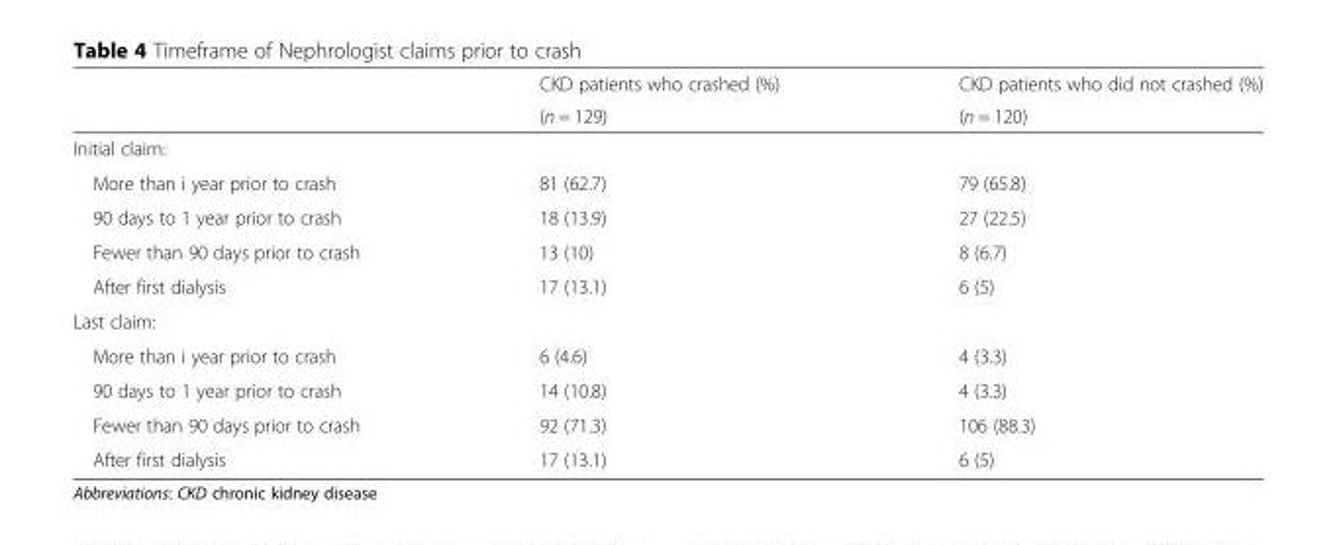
<table><thead><tr><td rowspan="2"></td><td rowspan="2">CKD patients who crashed (%) (n = 129)</td><td rowspan="2">CKD patients who did not crashed (%) (n = 120)</td></tr><tr></tr></thead><tbody><tr><td colspan="3">Initial claim:</td></tr><tr><td>More than i year prior to crash</td><td>81 (62.7)</td><td>79 (65.8)</td></tr><tr><td>90 days to 1 year prior to crash</td><td>18 (13.9)</td><td>27 (22.5)</td></tr><tr><td>Fewer than 90 days prior to crash</td><td>13 (10)</td><td>8 (6.7)</td></tr><tr><td>After first dialysis</td><td>17 (13.1)</td><td>6 (5)</td></tr><tr><td colspan="3">Last claim:</td></tr><tr><td>More than i year prior to crash</td><td>6 (4.6)</td><td>4 (3.3)</td></tr><tr><td>90 days to 1 year prior to crash</td><td>14 (10.8)</td><td>4 (3.3)</td></tr><tr><td>Fewer than 90 days prior to crash</td><td>92 (71.3)</td><td>106 (88.3)</td></tr><tr><td>After first dialysis</td><td>17 (13.1)</td><td>6 (5)</td></tr></tbody></table>